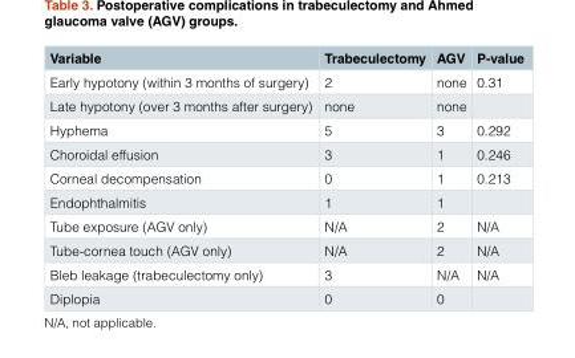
<table><thead><tr><td>Variable</td><td>Trabeculectomy</td><td>AGV</td><td>P-value</td></tr></thead><tbody><tr><td>Early hypotony (within 3 months of surgery)</td><td>2</td><td>none</td><td>0.31</td></tr><tr><td>Late hypotony (over 3 months after surgery)</td><td>none</td><td>none</td><td></td></tr><tr><td>Hyphema</td><td>5</td><td>3</td><td>0.292</td></tr><tr><td>Choroidal effusion</td><td>3</td><td>1</td><td>0.246</td></tr><tr><td>Corneal decompensation</td><td>0</td><td>1</td><td>0.213</td></tr><tr><td>Endophthalmitis</td><td>1</td><td>1</td><td></td></tr><tr><td>Tube exposure (AGV only)</td><td>N/A</td><td>2</td><td>N/A</td></tr><tr><td>Tube-cornea touch (AGV only)</td><td>N/A</td><td>2</td><td>N/A</td></tr><tr><td>Bleb leakage (trabeculectomy only)</td><td>3</td><td>N/A</td><td>N/A</td></tr><tr><td>Diplopia</td><td>0</td><td>0</td><td></td></tr></tbody></table>